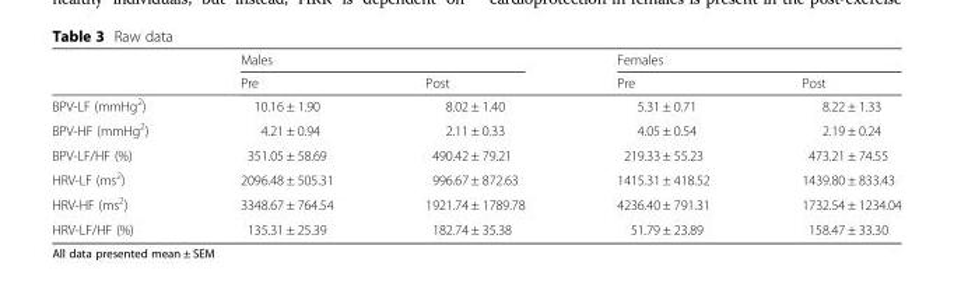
<table><thead><tr><td rowspan="2"></td><td colspan="2">Males</td><td colspan="2">Females</td></tr><tr><td>Pre</td><td>Post</td><td>Pre</td><td>Post</td></tr></thead><tbody><tr><td>BPV-LF (mmHg<sup>2</sup>)</td><td>10.16 ± 1.90</td><td>8.02 ± 1.40</td><td>5.31 ± 0.71</td><td>8.22 ± 1.33</td></tr><tr><td>BPV-HF (mmHg<sup>2</sup>)</td><td>4.21 ± 0.94</td><td>2.11 ± 0.33</td><td>4.05 ± 0.54</td><td>2.19 ± 0.24</td></tr><tr><td>BPV-LF/HF (%)</td><td>351.05 ± 58.69</td><td>490.42 ± 79.21</td><td>219.33 ± 55.23</td><td>473.21 ± 74.55</td></tr><tr><td>HRV-LF (ms<sup>2</sup>)</td><td>2096.48 ± 505.31</td><td>996.67 ± 872.63</td><td>1415.31 ± 418.52</td><td>1439.80 ± 833.43</td></tr><tr><td>HRV-HF (ms<sup>2</sup>)</td><td>3348.67 ± 764.54</td><td>1921.74 ± 1789.78</td><td>4236.40 ± 791.31</td><td>1732.54 ± 1234.04</td></tr><tr><td>HRV-LF/HF (%)</td><td>135.31 ± 25.39</td><td>182.74 ± 35.38</td><td>51.79 ± 23.89</td><td>158.47 ± 33.30</td></tr></tbody></table>